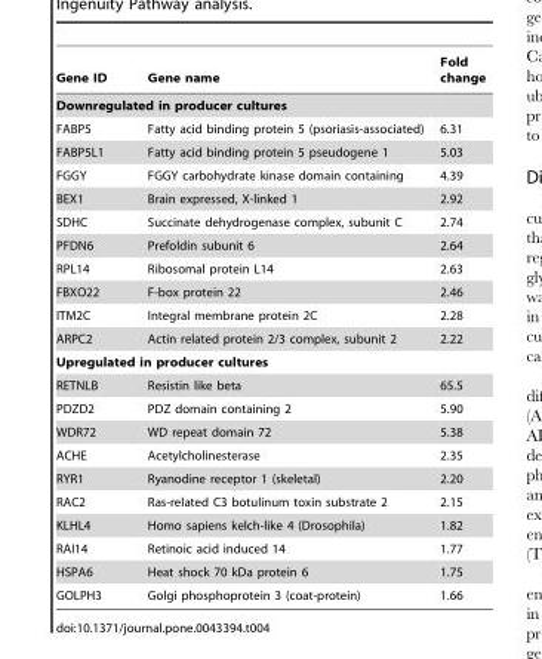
<table><thead><tr><td>Gene ID</td><td>Gene name</td><td>Fold change</td></tr></thead><tbody><tr><td colspan="3">Downregulated in producer cultures</td></tr><tr><td>FABP5</td><td>Fatty acid binding protein 5 (psoriasis-associated)</td><td>6.31</td></tr><tr><td>FABP5L1</td><td>Fatty acid binding protein 5 pseudogene 1</td><td>5.03</td></tr><tr><td>FGGY</td><td>FGGY carbohydrate kinase domain containing</td><td>4.39</td></tr><tr><td>BEX1</td><td>Brain expressed, X-linked 1</td><td>2.92</td></tr><tr><td>SDHC</td><td>Succinate dehydrogenase complex, subunit C</td><td>2.74</td></tr><tr><td>PFDN6</td><td>Prefoldin subunit 6</td><td>2.64</td></tr><tr><td>RPL14</td><td>Ribosomal protein L14</td><td>2.63</td></tr><tr><td>FBXO22</td><td>F-box protein 22</td><td>2.46</td></tr><tr><td>ITM2C</td><td>Integral membrane protein 2C</td><td>2.28</td></tr><tr><td>ARPC2</td><td>Actin related protein 2/3 complex, subunit 2</td><td>2.22</td></tr><tr><td colspan="3">Upregulated in producer cultures</td></tr><tr><td>RETNLB</td><td>Resistin like beta</td><td>65.5</td></tr><tr><td>PDZD2</td><td>PDZ domain containing 2</td><td>5.90</td></tr><tr><td>WDR72</td><td>WD repeat domain 72</td><td>5.38</td></tr><tr><td>ACHE</td><td>Acetylcholinesterase</td><td>2.35</td></tr><tr><td>RYR1</td><td>Ryanodine receptor 1 (skeletal)</td><td>2.20</td></tr><tr><td>RAC2</td><td>Ras-related C3 botulinum toxin substrate 2</td><td>2.15</td></tr><tr><td>KLHL4</td><td>Homo sapiens kelch-like 4 (Drosophila)</td><td>1.82</td></tr><tr><td>RAI14</td><td>Retinoic acid induced 14</td><td>1.77</td></tr><tr><td>HSPA6</td><td>Heat shock 70 kDa protein 6</td><td>1.75</td></tr><tr><td>GOLPH3</td><td>Golgi phosphoprotein 3 (coat-protein)</td><td>1.66</td></tr></tbody></table>